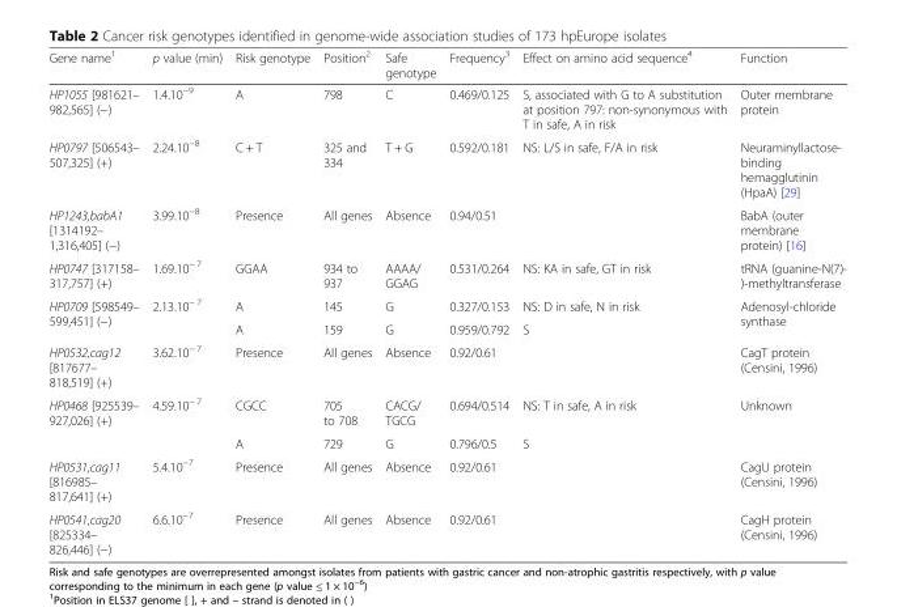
<table><thead><tr><td>Gene name<sup>1</sup></td><td>p value (min)</td><td>Risk genotype</td><td>Position<sup>2</sup></td><td>Safe genotype</td><td>Frequency<sup>3</sup></td><td>Effect on amino acid sequence<sup>4</sup></td><td>Function</td></tr></thead><tbody><tr><td>HP1055 [981621– 982,565] (−)</td><td>1.4.10<sup>−9</sup></td><td>A</td><td>798</td><td>C</td><td>0.469/0.125</td><td>S, associated with G to A substitution at position 797: non-synonymous with T in safe, A in risk</td><td>Outer membrane protein</td></tr><tr><td>HP0797 [506543– 507,325] (+)</td><td>2.24.10<sup>−8</sup></td><td>C + T</td><td>325 and 334</td><td>T + G</td><td>0.592/0.181</td><td>NS: L/S in safe, F/A in risk</td><td>Neuraminyllactose- binding hemagglutinin (HpaA) [29]</td></tr><tr><td>HP1243,babA1 [1314192– 1,316,405] (−)</td><td>3.99.10<sup>−8</sup></td><td>Presence</td><td>All genes</td><td>Absence</td><td>0.94/0.51</td><td></td><td>BabA (outer membrane protein) [16]</td></tr><tr><td>HP0747 [317158– 317,757] (+)</td><td>1.69.10<sup>− 7</sup></td><td>GGAA</td><td>934 to 937</td><td>AAAA/ GGAG</td><td>0.531/0.264</td><td>NS: KA in safe, GT in risk</td><td>tRNA (guanine-N(7)- )-methyltransferase</td></tr><tr><td rowspan="2">HP0709 [598549– 599,451] (−)</td><td>2.13.10<sup>− 7</sup></td><td>A</td><td>145</td><td>G</td><td>0.327/0.153</td><td>NS: D in safe, N in risk</td><td rowspan="2">Adenosyl-chloride synthase</td></tr><tr><td></td><td>A</td><td>159</td><td>G</td><td>0.959/0.792</td><td>S</td></tr><tr><td>HP0532,cag12 [817677– 818,519] (+)</td><td>3.62.10<sup>− 7</sup></td><td>Presence</td><td>All genes</td><td>Absence</td><td>0.92/0.61</td><td></td><td>CagT protein (Censini, 1996)</td></tr><tr><td rowspan="2">HP0468 [925539– 927,026] (+)</td><td>4.59.10<sup>− 7</sup></td><td>CGCC</td><td>705 to 708</td><td>CACG/ TGCG</td><td>0.694/0.514</td><td>NS: T in safe, A in risk</td><td rowspan="2">Unknown</td></tr><tr><td></td><td>A</td><td>729</td><td>G</td><td>0.796/0.5</td><td>S</td></tr><tr><td>HP0531,cag11 [816985– 817,641] (+)</td><td>5.4.10<sup>−7</sup></td><td>Presence</td><td>All genes</td><td>Absence</td><td>0.92/0.61</td><td></td><td>CagU protein (Censini, 1996)</td></tr><tr><td>HP0541,cag20 [825334– 826,446] (−)</td><td>6.6.10<sup>−7</sup></td><td>Presence</td><td>All genes</td><td>Absence</td><td>0.92/0.61</td><td></td><td>CagH protein (Censini, 1996)</td></tr></tbody></table>